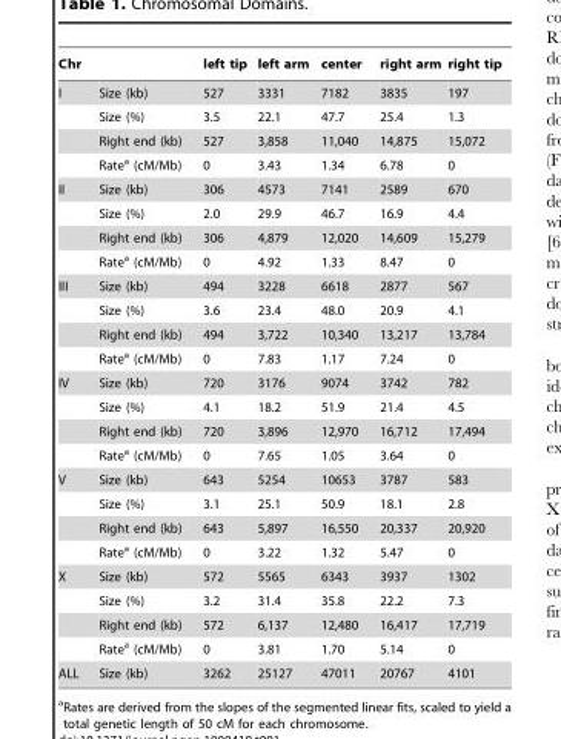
<table><thead><tr><td>Chr</td><td></td><td>left tip</td><td>left arm</td><td>center</td><td>right arm</td><td>right tip</td></tr></thead><tbody><tr><td rowspan="4">I</td><td>Size (kb)</td><td>527</td><td>3331</td><td>7182</td><td>3835</td><td>197</td></tr><tr><td>Size (%)</td><td>3.5</td><td>22.1</td><td>47.7</td><td>25.4</td><td>1.3</td></tr><tr><td>Right end (kb)</td><td>527</td><td>3,858</td><td>11,040</td><td>14,875</td><td>15,072</td></tr><tr><td>Rate<sup>a</sup> (cM/Mb)</td><td>0</td><td>3.43</td><td>1.34</td><td>6.78</td><td>0</td></tr><tr><td rowspan="4">II</td><td>Size (kb)</td><td>306</td><td>4573</td><td>7141</td><td>2589</td><td>670</td></tr><tr><td>Size (%)</td><td>2.0</td><td>29.9</td><td>46.7</td><td>16.9</td><td>4.4</td></tr><tr><td>Right end (kb)</td><td>306</td><td>4,879</td><td>12,020</td><td>14,609</td><td>15,279</td></tr><tr><td>Rate<sup>a</sup> (cM/Mb)</td><td>0</td><td>4.92</td><td>1.33</td><td>8.47</td><td>0</td></tr><tr><td rowspan="4">III</td><td>Size (kb)</td><td>494</td><td>3228</td><td>6618</td><td>2877</td><td>567</td></tr><tr><td>Size (%)</td><td>3.6</td><td>23.4</td><td>48.0</td><td>20.9</td><td>4.1</td></tr><tr><td>Right end (kb)</td><td>494</td><td>3,722</td><td>10,340</td><td>13,217</td><td>13,784</td></tr><tr><td>Rate<sup>a</sup> (cM/Mb)</td><td>0</td><td>7.83</td><td>1.17</td><td>7.24</td><td>0</td></tr><tr><td rowspan="4">IV</td><td>Size (kb)</td><td>720</td><td>3176</td><td>9074</td><td>3742</td><td>782</td></tr><tr><td>Size (%)</td><td>4.1</td><td>18.2</td><td>51.9</td><td>21.4</td><td>4.5</td></tr><tr><td>Right end (kb)</td><td>720</td><td>3,896</td><td>12,970</td><td>16,712</td><td>17,494</td></tr><tr><td>Rate<sup>a</sup> (cM/Mb)</td><td>0</td><td>7.65</td><td>1.05</td><td>3.64</td><td>0</td></tr><tr><td rowspan="4">V</td><td>Size (kb)</td><td>643</td><td>5254</td><td>10653</td><td>3787</td><td>583</td></tr><tr><td>Size (%)</td><td>3.1</td><td>25.1</td><td>50.9</td><td>18.1</td><td>2.8</td></tr><tr><td>Right end (kb)</td><td>643</td><td>5,897</td><td>16,550</td><td>20,337</td><td>20,920</td></tr><tr><td>Rate<sup>a</sup> (cM/Mb)</td><td>0</td><td>3.22</td><td>1.32</td><td>5.47</td><td>0</td></tr><tr><td rowspan="4">X</td><td>Size (kb)</td><td>572</td><td>5565</td><td>6343</td><td>3937</td><td>1302</td></tr><tr><td>Size (%)</td><td>3.2</td><td>31.4</td><td>35.8</td><td>22.2</td><td>7.3</td></tr><tr><td>Right end (kb)</td><td>572</td><td>6,137</td><td>12,480</td><td>16,417</td><td>17,719</td></tr><tr><td>Rate<sup>a</sup> (cM/Mb)</td><td>0</td><td>3.81</td><td>1.70</td><td>5.14</td><td>0</td></tr><tr><td>ALL</td><td>Size (kb)</td><td>3262</td><td>25127</td><td>47011</td><td>20767</td><td>4101</td></tr></tbody></table>